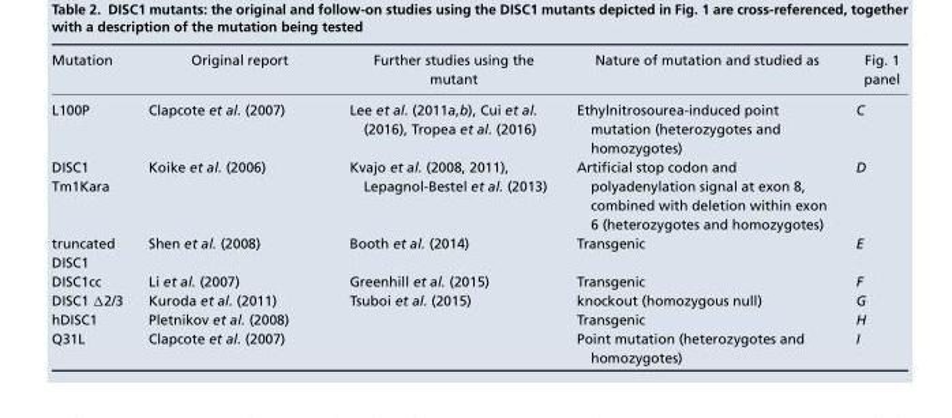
<table><thead><tr><td>Mutation</td><td>Original report</td><td>Further studies using the mutant</td><td>Nature of mutation and studied as</td><td>Fig. 1 panel</td></tr></thead><tbody><tr><td>L100P</td><td>Clapcote et al. (2007)</td><td>Lee et al. (2011a,b), Cui et al. (2016), Tropea et al. (2016)</td><td>Ethylnitrosourea-induced point mutation (heterozygotes and homozygotes)</td><td>C</td></tr><tr><td>DISC1 Tm1Kara</td><td>Koike et al. (2006)</td><td>Kvajo et al. (2008, 2011), Lepagnol-Bestel et al. (2013)</td><td>Artificial stop codon and polyadenylation signal at exon 8, combined with deletion within exon 6 (heterozygotes and homozygotes)</td><td>D</td></tr><tr><td>truncated DISC1</td><td>Shen et al. (2008)</td><td>Booth et al. (2014)</td><td>Transgenic</td><td>E</td></tr><tr><td>DISC1cc</td><td>Li et al. (2007)</td><td>Greenhill et al. (2015)</td><td>Transgenic</td><td>F</td></tr><tr><td>DISC1 Δ2/3</td><td>Kuroda et al. (2011)</td><td>Tsuboi et al. (2015)</td><td>knockout (homozygous null)</td><td>G</td></tr><tr><td>hDISC1</td><td>Pletnikov et al. (2008)</td><td></td><td>Transgenic</td><td>H</td></tr><tr><td>Q31L</td><td>Clapcote et al. (2007)</td><td></td><td>Point mutation (heterozygotes and homozygotes)</td><td>I</td></tr></tbody></table>